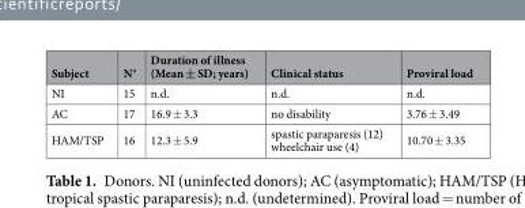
<table><thead><tr><td>Subject</td><td>N°</td><td>Duration of illness (Mean ± SD; years)</td><td>Clinical status</td><td>Proviral load</td></tr></thead><tbody><tr><td>NI</td><td>15</td><td>n.d.</td><td>n.d.</td><td>n.d.</td></tr><tr><td>AC</td><td>17</td><td>16.9 ± 3.3</td><td>no disability</td><td>3.76 ± 3.49</td></tr><tr><td>HAM/TSP</td><td>16</td><td>12.3 ± 5.9</td><td>spastic paraparesis (12) wheelchair use (4)</td><td>10.70 ± 3.35</td></tr></tbody></table>